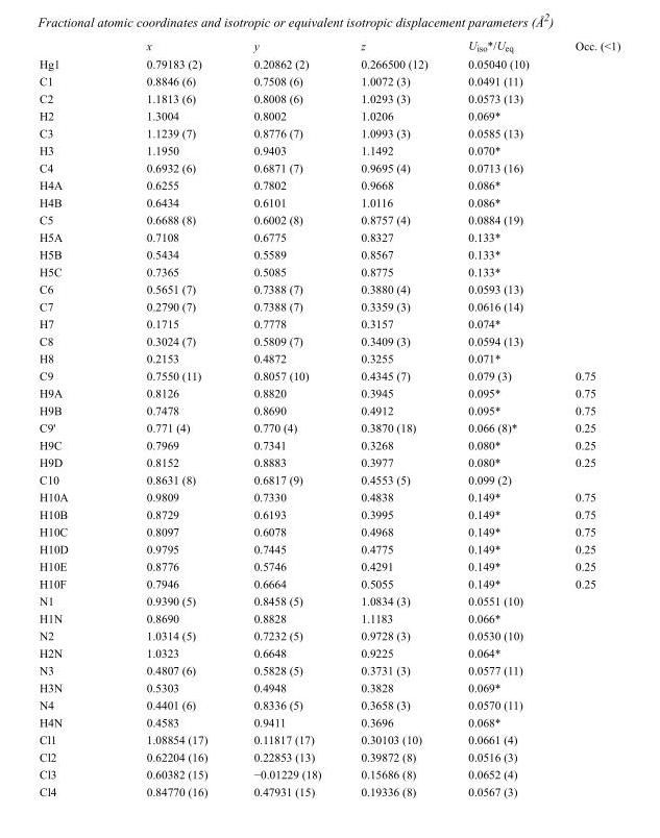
<table><thead><tr><td></td><td>x</td><td>y</td><td>z</td><td>U<sub>iso</sub>*/U<sub>eq</sub></td><td>Occ. (&lt;1)</td></tr></thead><tbody><tr><td>Hg1</td><td>0.79183 (2)</td><td>0.20862 (2)</td><td>0.266500 (12)</td><td>0.05040 (10)</td><td></td></tr><tr><td>C1</td><td>0.8846 (6)</td><td>0.7508 (6)</td><td>1.0072 (3)</td><td>0.0491 (11)</td><td></td></tr><tr><td>C2</td><td>1.1813 (6)</td><td>0.8008 (6)</td><td>1.0293 (3)</td><td>0.0573 (13)</td><td></td></tr><tr><td>H2</td><td>1.3004</td><td>0.8002</td><td>1.0206</td><td>0.069*</td><td></td></tr><tr><td>C3</td><td>1.1239 (7)</td><td>0.8776 (7)</td><td>1.0993 (3)</td><td>0.0585 (13)</td><td></td></tr><tr><td>H3</td><td>1.1950</td><td>0.9403</td><td>1.1492</td><td>0.070*</td><td></td></tr><tr><td>C4</td><td>0.6932 (6)</td><td>0.6871 (7)</td><td>0.9695 (4)</td><td>0.0713 (16)</td><td></td></tr><tr><td>H4A</td><td>0.6255</td><td>0.7802</td><td>0.9668</td><td>0.086*</td><td></td></tr><tr><td>H4B</td><td>0.6434</td><td>0.6101</td><td>1.0116</td><td>0.086*</td><td></td></tr><tr><td>C5</td><td>0.6688 (8)</td><td>0.6002 (8)</td><td>0.8757 (4)</td><td>0.0884 (19)</td><td></td></tr><tr><td>H5A</td><td>0.7108</td><td>0.6775</td><td>0.8327</td><td>0.133*</td><td></td></tr><tr><td>H5B</td><td>0.5434</td><td>0.5589</td><td>0.8567</td><td>0.133*</td><td></td></tr><tr><td>H5C</td><td>0.7365</td><td>0.5085</td><td>0.8775</td><td>0.133*</td><td></td></tr><tr><td>C6</td><td>0.5651 (7)</td><td>0.7388 (7)</td><td>0.3880 (4)</td><td>0.0593 (13)</td><td></td></tr><tr><td>C7</td><td>0.2790 (7)</td><td>0.7388 (7)</td><td>0.3359 (3)</td><td>0.0616 (14)</td><td></td></tr><tr><td>H7</td><td>0.1715</td><td>0.7778</td><td>0.3157</td><td>0.074*</td><td></td></tr><tr><td>C8</td><td>0.3024 (7)</td><td>0.5809 (7)</td><td>0.3409 (3)</td><td>0.0594 (13)</td><td></td></tr><tr><td>H8</td><td>0.2153</td><td>0.4872</td><td>0.3255</td><td>0.071*</td><td></td></tr><tr><td>C9</td><td>0.7550 (11)</td><td>0.8057 (10)</td><td>0.4345 (7)</td><td>0.079 (3)</td><td>0.75</td></tr><tr><td>H9A</td><td>0.8126</td><td>0.8820</td><td>0.3945</td><td>0.095*</td><td>0.75</td></tr><tr><td>H9B</td><td>0.7478</td><td>0.8690</td><td>0.4912</td><td>0.095*</td><td>0.75</td></tr><tr><td>C9&#x27;</td><td>0.771 (4)</td><td>0.770 (4)</td><td>0.3870 (18)</td><td>0.066 (8)*</td><td>0.25</td></tr><tr><td>H9C</td><td>0.7969</td><td>0.7341</td><td>0.3268</td><td>0.080*</td><td>0.25</td></tr><tr><td>H9D</td><td>0.8152</td><td>0.8883</td><td>0.3977</td><td>0.080*</td><td>0.25</td></tr><tr><td>C10</td><td>0.8631 (8)</td><td>0.6817 (9)</td><td>0.4553 (5)</td><td>0.099 (2)</td><td></td></tr><tr><td>H10A</td><td>0.9809</td><td>0.7330</td><td>0.4838</td><td>0.149*</td><td>0.75</td></tr><tr><td>H10B</td><td>0.8729</td><td>0.6193</td><td>0.3995</td><td>0.149*</td><td>0.75</td></tr><tr><td>H10C</td><td>0.8097</td><td>0.6078</td><td>0.4968</td><td>0.149*</td><td>0.75</td></tr><tr><td>H10D</td><td>0.9795</td><td>0.7445</td><td>0.4775</td><td>0.149*</td><td>0.25</td></tr><tr><td>H10E</td><td>0.8776</td><td>0.5746</td><td>0.4291</td><td>0.149*</td><td>0.25</td></tr><tr><td>H10F</td><td>0.7946</td><td>0.6664</td><td>0.5055</td><td>0.149*</td><td>0.25</td></tr><tr><td>N1</td><td>0.9390 (5)</td><td>0.8458 (5)</td><td>1.0834 (3)</td><td>0.0551 (10)</td><td></td></tr><tr><td>H1N</td><td>0.8690</td><td>0.8828</td><td>1.1183</td><td>0.066*</td><td></td></tr><tr><td>N2</td><td>1.0314 (5)</td><td>0.7232 (5)</td><td>0.9728 (3)</td><td>0.0530 (10)</td><td></td></tr><tr><td>H2N</td><td>1.0323</td><td>0.6648</td><td>0.9225</td><td>0.064*</td><td></td></tr><tr><td>N3</td><td>0.4807 (6)</td><td>0.5828 (5)</td><td>0.3731 (3)</td><td>0.0577 (11)</td><td></td></tr><tr><td>H3N</td><td>0.5303</td><td>0.4948</td><td>0.3828</td><td>0.069*</td><td></td></tr><tr><td>N4</td><td>0.4401 (6)</td><td>0.8336 (5)</td><td>0.3658 (3)</td><td>0.0570 (11)</td><td></td></tr><tr><td>H4N</td><td>0.4583</td><td>0.9411</td><td>0.3696</td><td>0.068*</td><td></td></tr><tr><td>Cl1</td><td>1.08854 (17)</td><td>0.11817 (17)</td><td>0.30103 (10)</td><td>0.0661 (4)</td><td></td></tr><tr><td>Cl2</td><td>0.62204 (16)</td><td>0.22853 (13)</td><td>0.39872 (8)</td><td>0.0516 (3)</td><td></td></tr><tr><td>Cl3</td><td>0.60382 (15)</td><td>−0.01229 (18)</td><td>0.15686 (8)</td><td>0.0652 (4)</td><td></td></tr><tr><td>Cl4</td><td>0.84770 (16)</td><td>0.47931 (15)</td><td>0.19336 (8)</td><td>0.0567 (3)</td><td></td></tr></tbody></table>